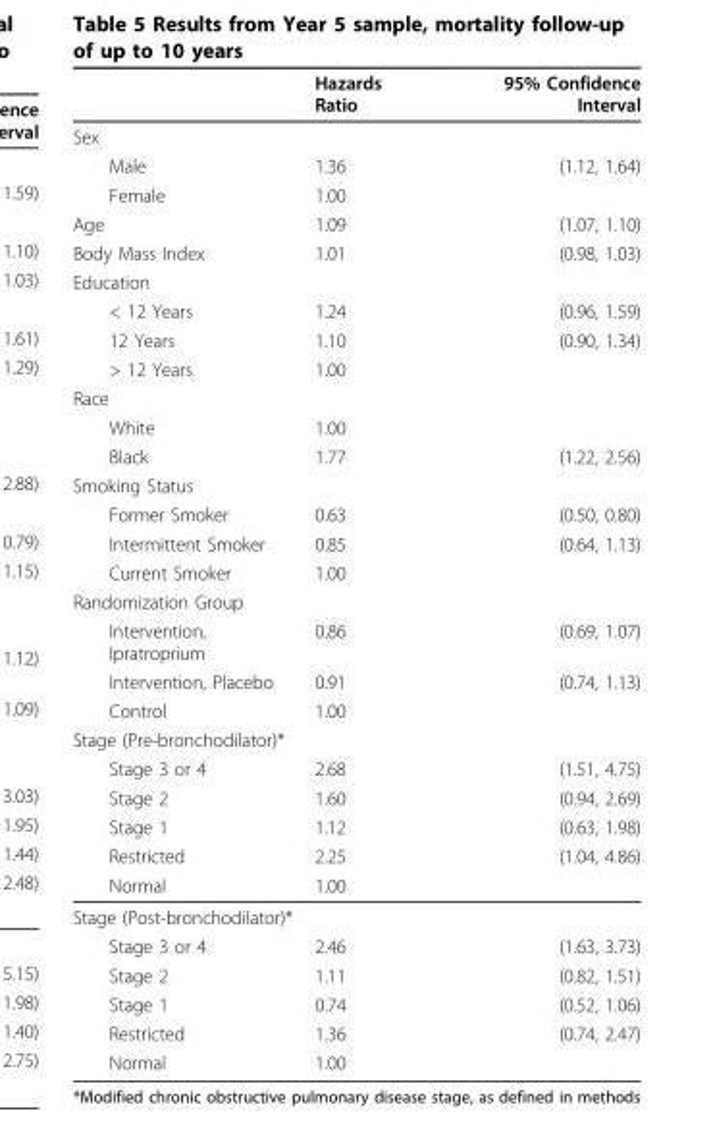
<table><thead><tr><td></td><td>Hazards Ratio</td><td>95% Confidence Interval</td></tr></thead><tbody><tr><td colspan="3">Sex</td></tr><tr><td>Male</td><td>1.36</td><td>(1.12, 1.64)</td></tr><tr><td>Female</td><td>1.00</td><td></td></tr><tr><td>Age</td><td>1.09</td><td>(1.07, 1.10)</td></tr><tr><td>Body Mass Index</td><td>1.01</td><td>(0.98, 1.03)</td></tr><tr><td colspan="3">Education</td></tr><tr><td>&lt; 12 Years</td><td>1.24</td><td>(0.96, 1.59)</td></tr><tr><td>12 Years</td><td>1.10</td><td>(0.90, 1.34)</td></tr><tr><td>&gt; 12 Years</td><td>1.00</td><td></td></tr><tr><td colspan="3">Race</td></tr><tr><td>White</td><td>1.00</td><td></td></tr><tr><td>Black</td><td>1.77</td><td>(1.22, 2.56)</td></tr><tr><td colspan="3">Smoking Status</td></tr><tr><td>Former Smoker</td><td>0.63</td><td>(0.50, 0.80)</td></tr><tr><td>Intermittent Smoker</td><td>0.85</td><td>(0.64, 1.13)</td></tr><tr><td>Current Smoker</td><td>1.00</td><td></td></tr><tr><td colspan="3">Randomization Group</td></tr><tr><td>Intervention, Ipratroprium</td><td>0.86</td><td>(0.69, 1.07)</td></tr><tr><td>Intervention, Placebo</td><td>0.91</td><td>(0.74, 1.13)</td></tr><tr><td>Control</td><td>1.00</td><td></td></tr><tr><td colspan="3">Stage (Pre-bronchodilator)*</td></tr><tr><td>Stage 3 or 4</td><td>2.68</td><td>(1.51, 4.75)</td></tr><tr><td>Stage 2</td><td>1.60</td><td>(0.94, 2.69)</td></tr><tr><td>Stage 1</td><td>1.12</td><td>(0.63, 1.98)</td></tr><tr><td>Restricted</td><td>2.25</td><td>(1.04, 4.86)</td></tr><tr><td>Normal</td><td>1.00</td><td></td></tr><tr><td colspan="3">Stage (Post-bronchodilator)*</td></tr><tr><td>Stage 3 or 4</td><td>2.46</td><td>(1.63, 3.73)</td></tr><tr><td>Stage 2</td><td>1.11</td><td>(0.82, 1.51)</td></tr><tr><td>Stage 1</td><td>0.74</td><td>(0.52, 1.06)</td></tr><tr><td>Restricted</td><td>1.36</td><td>(0.74, 2.47)</td></tr><tr><td>Normal</td><td>1.00</td><td></td></tr></tbody></table>